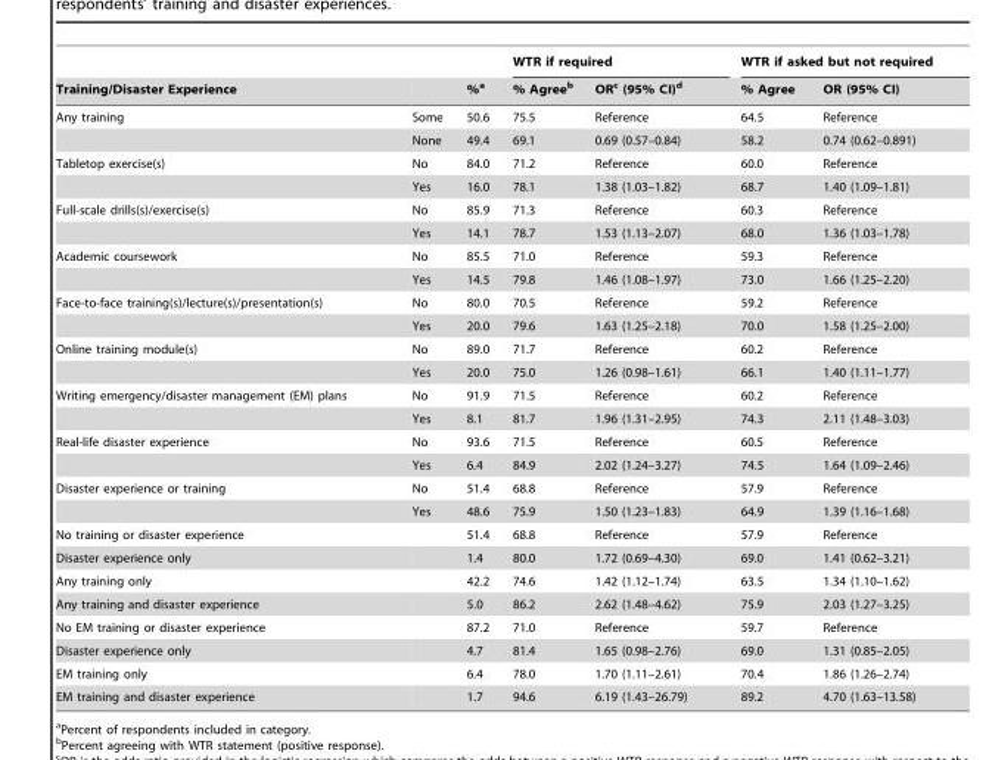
<table><thead><tr><td rowspan="2">Training/Disaster Experience</td><td rowspan="2"></td><td rowspan="2">%<sup>a</sup></td><td colspan="2">WTR if required</td><td colspan="2">WTR if asked but not required</td></tr><tr><td>% Agree<sup>b</sup></td><td>OR<sup>c</sup> (95% CI)<sup>d</sup></td><td>% Agree</td><td>OR (95% CI)</td></tr></thead><tbody><tr><td rowspan="2">Any training</td><td>Some</td><td>50.6</td><td>75.5</td><td>Reference</td><td>64.5</td><td>Reference</td></tr><tr><td>None</td><td>49.4</td><td>69.1</td><td>0.69 (0.57–0.84)</td><td>58.2</td><td>0.74 (0.62–0.891)</td></tr><tr><td rowspan="2">Tabletop exercise(s)</td><td>No</td><td>84.0</td><td>71.2</td><td>Reference</td><td>60.0</td><td>Reference</td></tr><tr><td>Yes</td><td>16.0</td><td>78.1</td><td>1.38 (1.03–1.82)</td><td>68.7</td><td>1.40 (1.09–1.81)</td></tr><tr><td rowspan="2">Full-scale drills(s)/exercise(s)</td><td>No</td><td>85.9</td><td>71.3</td><td>Reference</td><td>60.3</td><td>Reference</td></tr><tr><td>Yes</td><td>14.1</td><td>78.7</td><td>1.53 (1.13–2.07)</td><td>68.0</td><td>1.36 (1.03–1.78)</td></tr><tr><td rowspan="2">Academic coursework</td><td>No</td><td>85.5</td><td>71.0</td><td>Reference</td><td>59.3</td><td>Reference</td></tr><tr><td>Yes</td><td>14.5</td><td>79.8</td><td>1.46 (1.08–1.97)</td><td>73.0</td><td>1.66 (1.25–2.20)</td></tr><tr><td rowspan="2">Face-to-face training(s)/lecture(s)/presentation(s)</td><td>No</td><td>80.0</td><td>70.5</td><td>Reference</td><td>59.2</td><td>Reference</td></tr><tr><td>Yes</td><td>20.0</td><td>79.6</td><td>1.63 (1.25–2.18)</td><td>70.0</td><td>1.58 (1.25–2.00)</td></tr><tr><td rowspan="2">Online training module(s)</td><td>No</td><td>89.0</td><td>71.7</td><td>Reference</td><td>60.2</td><td>Reference</td></tr><tr><td>Yes</td><td>20.0</td><td>75.0</td><td>1.26 (0.98–1.61)</td><td>66.1</td><td>1.40 (1.11–1.77)</td></tr><tr><td rowspan="2">Writing emergency/disaster management (EM) plans</td><td>No</td><td>91.9</td><td>71.5</td><td>Reference</td><td>60.2</td><td>Reference</td></tr><tr><td>Yes</td><td>8.1</td><td>81.7</td><td>1.96 (1.31–2.95)</td><td>74.3</td><td>2.11 (1.48–3.03)</td></tr><tr><td rowspan="2">Real-life disaster experience</td><td>No</td><td>93.6</td><td>71.5</td><td>Reference</td><td>60.5</td><td>Reference</td></tr><tr><td>Yes</td><td>6.4</td><td>84.9</td><td>2.02 (1.24–3.27)</td><td>74.5</td><td>1.64 (1.09–2.46)</td></tr><tr><td rowspan="2">Disaster experience or training</td><td>No</td><td>51.4</td><td>68.8</td><td>Reference</td><td>57.9</td><td>Reference</td></tr><tr><td>Yes</td><td>48.6</td><td>75.9</td><td>1.50 (1.23–1.83)</td><td>64.9</td><td>1.39 (1.16–1.68)</td></tr><tr><td>No training or disaster experience</td><td></td><td>51.4</td><td>68.8</td><td>Reference</td><td>57.9</td><td>Reference</td></tr><tr><td>Disaster experience only</td><td></td><td>1.4</td><td>80.0</td><td>1.72 (0.69–4.30)</td><td>69.0</td><td>1.41 (0.62–3.21)</td></tr><tr><td>Any training only</td><td></td><td>42.2</td><td>74.6</td><td>1.42 (1.12–1.74)</td><td>63.5</td><td>1.34 (1.10–1.62)</td></tr><tr><td>Any training and disaster experience</td><td></td><td>5.0</td><td>86.2</td><td>2.62 (1.48–4.62)</td><td>75.9</td><td>2.03 (1.27–3.25)</td></tr><tr><td>No EM training or disaster experience</td><td></td><td>87.2</td><td>71.0</td><td>Reference</td><td>59.7</td><td>Reference</td></tr><tr><td>Disaster experience only</td><td></td><td>4.7</td><td>81.4</td><td>1.65 (0.98–2.76)</td><td>69.0</td><td>1.31 (0.85–2.05)</td></tr><tr><td>EM training only</td><td></td><td>6.4</td><td>78.0</td><td>1.70 (1.11–2.61)</td><td>70.4</td><td>1.86 (1.26–2.74)</td></tr><tr><td>EM training and disaster experience</td><td></td><td>1.7</td><td>94.6</td><td>6.19 (1.43–26.79)</td><td>89.2</td><td>4.70 (1.63–13.58)</td></tr></tbody></table>